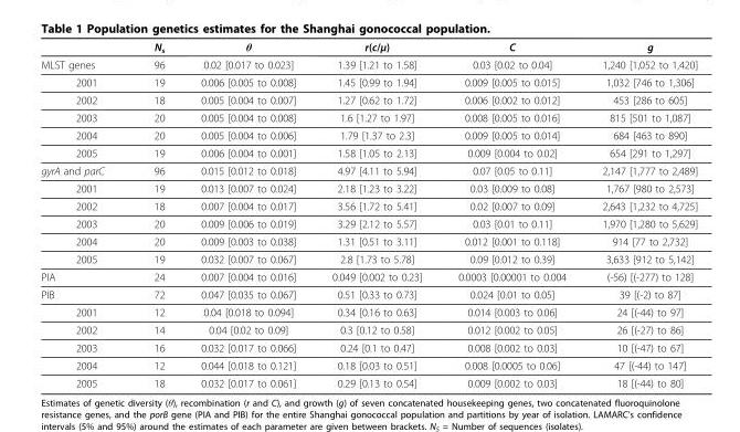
<table><thead><tr><td></td><td>N<sub>s</sub></td><td>θ</td><td>r(c/μ)</td><td>C</td><td>g</td></tr></thead><tbody><tr><td>MLST genes</td><td>96</td><td>0.02 [0.017 to 0.023]</td><td>1.39 [1.21 to 1.58]</td><td>0.03 [0.02 to 0.04]</td><td>1,240 [1,052 to 1,420]</td></tr><tr><td>2001</td><td>19</td><td>0.006 [0.005 to 0.008]</td><td>1.45 [0.99 to 1.94]</td><td>0.009 [0.005 to 0.015]</td><td>1,032 [746 to 1,306]</td></tr><tr><td>2002</td><td>18</td><td>0.005 [0.004 to 0.007]</td><td>1.27 [0.62 to 1.72]</td><td>0.006 [0.002 to 0.012]</td><td>453 [286 to 605]</td></tr><tr><td>2003</td><td>20</td><td>0.005 [0.004 to 0.008]</td><td>1.6 [1.27 to 1.97]</td><td>0.008 [0.005 to 0.016]</td><td>815 [501 to 1,087]</td></tr><tr><td>2004</td><td>20</td><td>0.005 [0.004 to 0.006]</td><td>1.79 [1.37 to 2.3]</td><td>0.009 [0.005 to 0.014]</td><td>684 [463 to 890]</td></tr><tr><td>2005</td><td>19</td><td>0.006 [0.004 to 0.001]</td><td>1.58 [1.05 to 2.13]</td><td>0.009 [0.004 to 0.02]</td><td>654 [291 to 1,297]</td></tr><tr><td>gyrA and parC</td><td>96</td><td>0.015 [0.012 to 0.018]</td><td>4.97 [4.11 to 5.94]</td><td>0.07 [0.05 to 0.11]</td><td>2,147 [1,777 to 2,489]</td></tr><tr><td>2001</td><td>19</td><td>0.013 [0.007 to 0.024]</td><td>2.18 [1.23 to 3.22]</td><td>0.03 [0.009 to 0.08]</td><td>1,767 [980 to 2,573]</td></tr><tr><td>2002</td><td>18</td><td>0.007 [0.004 to 0.017]</td><td>3.56 [1.72 to 5.41]</td><td>0.02 [0.007 to 0.09]</td><td>2,643 [1,232 to 4,725]</td></tr><tr><td>2003</td><td>20</td><td>0.009 [0.006 to 0.019]</td><td>3.29 [2.12 to 5.57]</td><td>0.03 [0.01 to 0.11]</td><td>1,970 [1,280 to 5,629]</td></tr><tr><td>2004</td><td>20</td><td>0.009 [0.003 to 0.038]</td><td>1.31 [0.51 to 3.11]</td><td>0.012 [0.001 to 0.118]</td><td>914 [77 to 2,732]</td></tr><tr><td>2005</td><td>19</td><td>0.032 [0.007 to 0.067]</td><td>2.8 [1.73 to 5.78]</td><td>0.09 [0.012 to 0.39]</td><td>3,633 [912 to 5,142]</td></tr><tr><td>PIA</td><td>24</td><td>0.007 [0.004 to 0.016]</td><td>0.049 [0.002 to 0.23]</td><td>0.0003 [0.00001 to 0.004</td><td>(-56) [(-277) to 128]</td></tr><tr><td>PIB</td><td>72</td><td>0.047 [0.035 to 0.067]</td><td>0.51 [0.33 to 0.73]</td><td>0.024 [0.01 to 0.05]</td><td>39 [(-2) to 87]</td></tr><tr><td>2001</td><td>12</td><td>0.04 [0.018 to 0.094]</td><td>0.34 [0.16 to 0.63]</td><td>0.014 [0.003 to 0.06]</td><td>24 [(-44) to 97]</td></tr><tr><td>2002</td><td>14</td><td>0.04 [0.02 to 0.09]</td><td>0.3 [0.12 to 0.58]</td><td>0.012 [0.002 to 0.05]</td><td>26 [(-27) to 86]</td></tr><tr><td>2003</td><td>16</td><td>0.032 [0.017 to 0.066]</td><td>0.24 [0.1 to 0.47]</td><td>0.008 [0.002 to 0.03]</td><td>10 [(-47) to 67]</td></tr><tr><td>2004</td><td>12</td><td>0.044 [0.018 to 0.121]</td><td>0.18 [0.03 to 0.51]</td><td>0.008 [0.0005 to 0.06]</td><td>47 [(-44) to 147]</td></tr><tr><td>2005</td><td>18</td><td>0.032 [0.017 to 0.061]</td><td>0.29 [0.13 to 0.54]</td><td>0.009 [0.002 to 0.03]</td><td>18 [(-44) to 80]</td></tr></tbody></table>